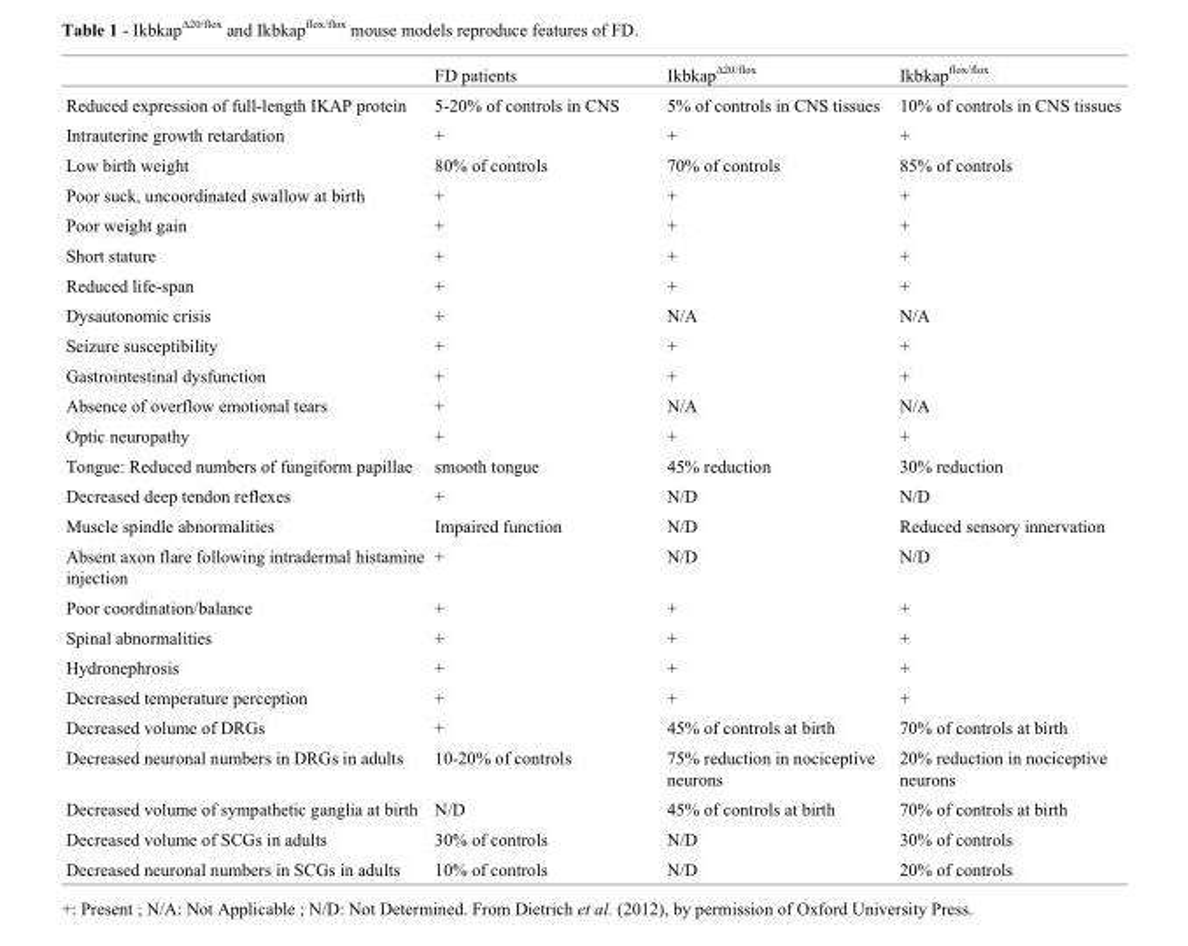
<table><thead><tr><td></td><td>FD patients</td><td>Ikbkap<sup>Δ20/flox</sup></td><td>Ikbkap<sup>flox/flox</sup></td></tr></thead><tbody><tr><td>Reduced expression of full-length IKAP protein</td><td>5-20% of controls in CNS</td><td>5% of controls in CNS tissues</td><td>10% of controls in CNS tissues</td></tr><tr><td>Intrauterine growth retardation</td><td>+</td><td>+</td><td>+</td></tr><tr><td>Low birth weight</td><td>80% of controls</td><td>70% of controls</td><td>85% of controls</td></tr><tr><td>Poor suck, uncoordinated swallow at birth</td><td>+</td><td>+</td><td>+</td></tr><tr><td>Poor weight gain</td><td>+</td><td>+</td><td>+</td></tr><tr><td>Short stature</td><td>+</td><td>+</td><td>+</td></tr><tr><td>Reduced life-span</td><td>+</td><td>+</td><td>+</td></tr><tr><td>Dysautonomic crisis</td><td>+</td><td>N/A</td><td>N/A</td></tr><tr><td>Seizure susceptibility</td><td>+</td><td>+</td><td>+</td></tr><tr><td>Gastrointestinal dysfunction</td><td>+</td><td>+</td><td>+</td></tr><tr><td>Absence of overflow emotional tears</td><td>+</td><td>N/A</td><td>N/A</td></tr><tr><td>Optic neuropathy</td><td>+</td><td>+</td><td>+</td></tr><tr><td>Tongue: Reduced numbers of fungiform papillae</td><td>smooth tongue</td><td>45% reduction</td><td>30% reduction</td></tr><tr><td>Decreased deep tendon reflexes</td><td>+</td><td>N/D</td><td>N/D</td></tr><tr><td>Muscle spindle abnormalities</td><td>Impaired function</td><td>N/D</td><td>Reduced sensory innervation</td></tr><tr><td>Absent axon flare following intradermal histamine injection</td><td>+</td><td>N/D</td><td>N/D</td></tr><tr><td>Poor coordination/balance</td><td>+</td><td>+</td><td>+</td></tr><tr><td>Spinal abnormalities</td><td>+</td><td>+</td><td>+</td></tr><tr><td>Hydronephrosis</td><td>+</td><td>+</td><td>+</td></tr><tr><td>Decreased temperature perception</td><td>+</td><td>+</td><td>+</td></tr><tr><td>Decreased volume of DRGs</td><td>+</td><td>45% of controls at birth</td><td>70% of controls at birth</td></tr><tr><td>Decreased neuronal numbers in DRGs in adults</td><td>10-20% of controls</td><td>75% reduction in nociceptive neurons</td><td>20% reduction in nociceptive neurons</td></tr><tr><td>Decreased volume of sympathetic ganglia at birth</td><td>N/D</td><td>45% of controls at birth</td><td>70% of controls at birth</td></tr><tr><td>Decreased volume of SCGs in adults</td><td>30% of controls</td><td>N/D</td><td>30% of controls</td></tr><tr><td>Decreased neuronal numbers in SCGs in adults</td><td>10% of controls</td><td>N/D</td><td>20% of controls</td></tr></tbody></table>